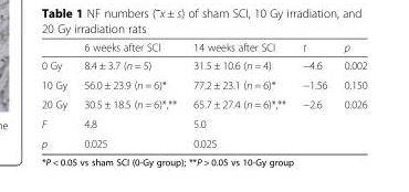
<table><thead><tr><td></td><td>6 weeks after SCI</td><td>14 weeks after SCI</td><td>t</td><td>p</td></tr></thead><tbody><tr><td>0 Gy</td><td>8.4 ± 3.7 (n = 5)</td><td>31.5 ± 10.6 (n = 4)</td><td>−4.6</td><td>0.002</td></tr><tr><td>10 Gy</td><td>56.0 ± 23.9 (n = 6)*</td><td>77.2 ± 23.1 (n = 6)*</td><td>−1.56</td><td>0.150</td></tr><tr><td>20 Gy</td><td>30.5 ± 18.5 (n = 6)*,**</td><td>65.7 ± 27.4 (n = 6)*,**</td><td>−2.6</td><td>0.026</td></tr><tr><td>F</td><td>4.8</td><td>5.0</td><td></td><td></td></tr><tr><td>p</td><td>0.025</td><td>0.025</td><td></td><td></td></tr></tbody></table>